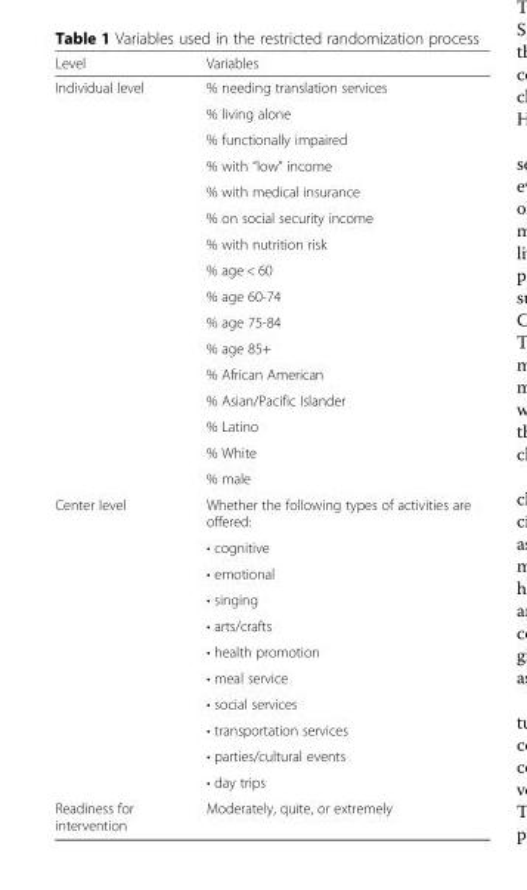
<table><thead><tr><td>Level</td><td>Variables</td></tr></thead><tbody><tr><td rowspan="16">Individual level</td><td>% needing translation services</td></tr><tr><td>% living alone</td></tr><tr><td>% functionally impaired</td></tr><tr><td>% with “low” income</td></tr><tr><td>% with medical insurance</td></tr><tr><td>% on social security income</td></tr><tr><td>% with nutrition risk</td></tr><tr><td>% age &lt; 60</td></tr><tr><td>% age 60-74</td></tr><tr><td>% age 75-84</td></tr><tr><td>% age 85+</td></tr><tr><td>% African American</td></tr><tr><td>% Asian/Pacific Islander</td></tr><tr><td>% Latino</td></tr><tr><td>% White</td></tr><tr><td>% male</td></tr><tr><td rowspan="11">Center level</td><td>Whether the following types of activities are offered:</td></tr><tr><td>• cognitive</td></tr><tr><td>• emotional</td></tr><tr><td>• singing</td></tr><tr><td>• arts/crafts</td></tr><tr><td>• health promotion</td></tr><tr><td>• meal service</td></tr><tr><td>• social services</td></tr><tr><td>• transportation services</td></tr><tr><td>• parties/cultural events</td></tr><tr><td>• day trips</td></tr><tr><td>Readiness for intervention</td><td>Moderately, quite, or extremely</td></tr></tbody></table>